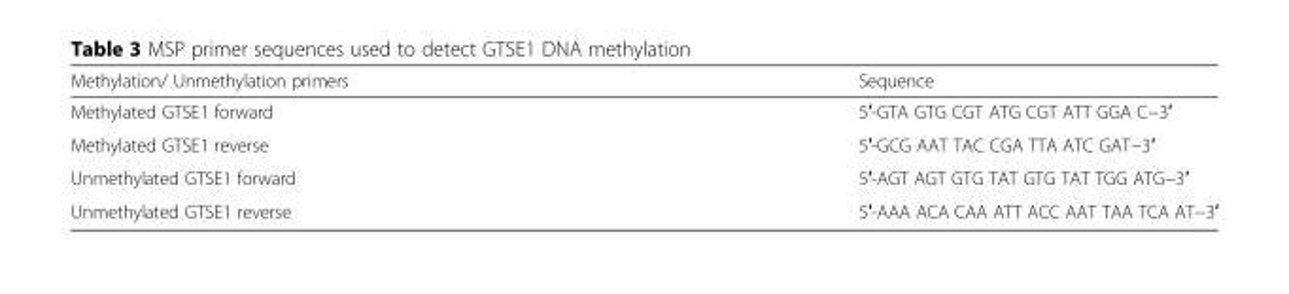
<table><thead><tr><td>Methylation/ Unmethylation primers</td><td>Sequence</td></tr></thead><tbody><tr><td>Methylated GTSE1 forward</td><td>5′-GTA GTG CGT ATG CGT ATT GGA C−3′</td></tr><tr><td>Methylated GTSE1 reverse</td><td>5′-GCG AAT TAC CGA TTA ATC GAT−3′</td></tr><tr><td>Unmethylated GTSE1 forward</td><td>5′-AGT AGT GTG TAT GTG TAT TGG ATG−3′</td></tr><tr><td>Unmethylated GTSE1 reverse</td><td>5′-AAA ACA CAA ATT ACC AAT TAA TCA AT−3′</td></tr></tbody></table>